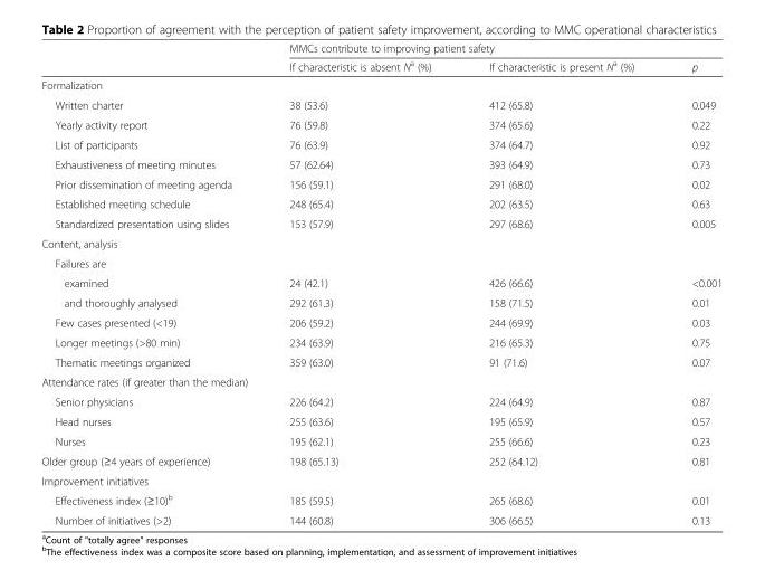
<table><thead><tr><td rowspan="2"></td><td colspan="3">MMCs contribute to improving patient safety</td></tr><tr><td>If characteristic is absent N<sup>a</sup> (%)</td><td>If characteristic is present N<sup>a</sup> (%)</td><td>p</td></tr></thead><tbody><tr><td colspan="4">Formalization</td></tr><tr><td>Written charter</td><td>38 (53.6)</td><td>412 (65.8)</td><td>0.049</td></tr><tr><td>Yearly activity report</td><td>76 (59.8)</td><td>374 (65.6)</td><td>0.22</td></tr><tr><td>List of participants</td><td>76 (63.9)</td><td>374 (64.7)</td><td>0.92</td></tr><tr><td>Exhaustiveness of meeting minutes</td><td>57 (62.64)</td><td>393 (64.9)</td><td>0.73</td></tr><tr><td>Prior dissemination of meeting agenda</td><td>156 (59.1)</td><td>291 (68.0)</td><td>0.02</td></tr><tr><td>Established meeting schedule</td><td>248 (65.4)</td><td>202 (63.5)</td><td>0.63</td></tr><tr><td>Standardized presentation using slides</td><td>153 (57.9)</td><td>297 (68.6)</td><td>0.005</td></tr><tr><td colspan="4">Content, analysis</td></tr><tr><td colspan="4">Failures are</td></tr><tr><td>examined</td><td>24 (42.1)</td><td>426 (66.6)</td><td>&lt;0.001</td></tr><tr><td>and thoroughly analysed</td><td>292 (61.3)</td><td>158 (71.5)</td><td>0.01</td></tr><tr><td>Few cases presented (&lt;19)</td><td>206 (59.2)</td><td>244 (69.9)</td><td>0.03</td></tr><tr><td>Longer meetings (&gt;80 min)</td><td>234 (63.9)</td><td>216 (65.3)</td><td>0.75</td></tr><tr><td>Thematic meetings organized</td><td>359 (63.0)</td><td>91 (71.6)</td><td>0.07</td></tr><tr><td colspan="4">Attendance rates (if greater than the median)</td></tr><tr><td>Senior physicians</td><td>226 (64.2)</td><td>224 (64.9)</td><td>0.87</td></tr><tr><td>Head nurses</td><td>255 (63.6)</td><td>195 (65.9)</td><td>0.57</td></tr><tr><td>Nurses</td><td>195 (62.1)</td><td>255 (66.6)</td><td>0.23</td></tr><tr><td>Older group (≥4 years of experience)</td><td>198 (65.13)</td><td>252 (64.12)</td><td>0.81</td></tr><tr><td colspan="4">Improvement initiatives</td></tr><tr><td>Effectiveness index (≥10)<sup>b</sup></td><td>185 (59.5)</td><td>265 (68.6)</td><td>0.01</td></tr><tr><td>Number of initiatives (&gt;2)</td><td>144 (60.8)</td><td>306 (66.5)</td><td>0.13</td></tr></tbody></table>